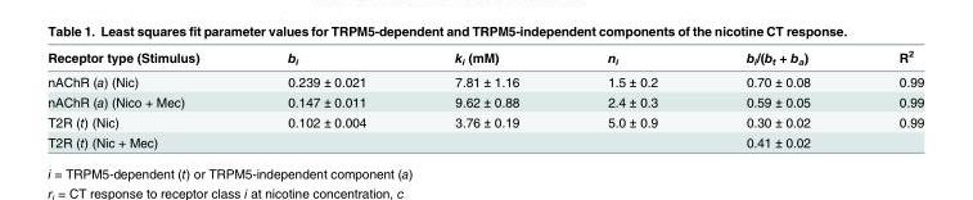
<table><thead><tr><td>Receptor type (Stimulus)</td><td>b<sub>i</sub></td><td>k<sub>i</sub> (mM)</td><td>n<sub>i</sub></td><td>b<sub>i</sub>/(b<sub>t</sub> + b<sub>a</sub>)</td><td>R<sup>2</sup></td></tr></thead><tbody><tr><td>nAChR (a) (Nic)</td><td>0.239 ± 0.021</td><td>7.81 ± 1.16</td><td>1.5 ± 0.2</td><td>0.70 ± 0.08</td><td>0.99</td></tr><tr><td>nAChR (a) (Nico + Mec)</td><td>0.147 ± 0.011</td><td>9.62 ± 0.88</td><td>2.4 ± 0.3</td><td>0.59 ± 0.05</td><td>0.99</td></tr><tr><td>T2R (t) (Nic)</td><td>0.102 ± 0.004</td><td>3.76 ± 0.19</td><td>5.0 ± 0.9</td><td>0.30 ± 0.02</td><td>0.99</td></tr><tr><td>T2R (t) (Nic + Mec)</td><td></td><td></td><td></td><td>0.41 ± 0.02</td><td></td></tr></tbody></table>